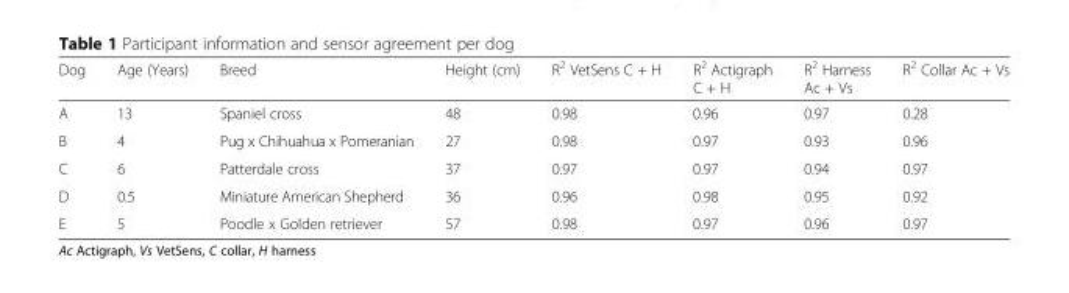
<table><thead><tr><td>Dog</td><td>Age (Years)</td><td>Breed</td><td>Height (cm)</td><td>R<sup>2</sup> VetSens C + H</td><td>R<sup>2</sup> Actigraph C + H</td><td>R<sup>2</sup> Harness Ac + Vs</td><td>R<sup>2</sup> Collar Ac + Vs</td></tr></thead><tbody><tr><td>A</td><td>13</td><td>Spaniel cross</td><td>48</td><td>0.98</td><td>0.96</td><td>0.97</td><td>0.28</td></tr><tr><td>B</td><td>4</td><td>Pug x Chihuahua x Pomeranian</td><td>27</td><td>0.98</td><td>0.97</td><td>0.93</td><td>0.96</td></tr><tr><td>C</td><td>6</td><td>Patterdale cross</td><td>37</td><td>0.97</td><td>0.97</td><td>0.94</td><td>0.97</td></tr><tr><td>D</td><td>0.5</td><td>Miniature American Shepherd</td><td>36</td><td>0.96</td><td>0.98</td><td>0.95</td><td>0.92</td></tr><tr><td>E</td><td>5</td><td>Poodle x Golden retriever</td><td>57</td><td>0.98</td><td>0.97</td><td>0.96</td><td>0.97</td></tr></tbody></table>